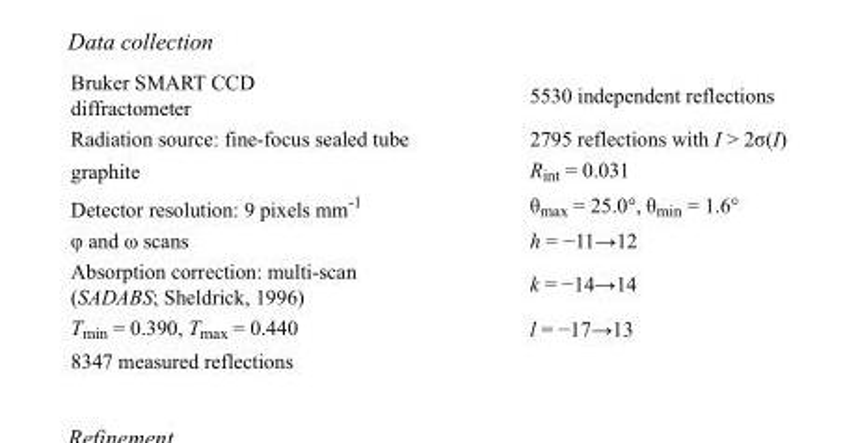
<table><tbody><tr><td>Bruker SMART CCD diffractometer</td><td>5530 independent reflections</td></tr><tr><td>Radiation source: fine-focus sealed tube</td><td>2795 reflections with I &gt; 2σ(I)</td></tr><tr><td>graphite</td><td>R<sub>int</sub> = 0.031</td></tr><tr><td>Detector resolution: 9 pixels mm<sup>-1</sup></td><td>θ<sub>max</sub> = 25.0°, θ<sub>min</sub> = 1.6°</td></tr><tr><td>φ and ω scans</td><td>h = −11→12</td></tr><tr><td>Absorption correction: multi-scan (SADABS; Sheldrick, 1996)</td><td>k = −14→14</td></tr><tr><td>T<sub>min</sub> = 0.390, T<sub>max</sub> = 0.440</td><td>l = −17→13</td></tr><tr><td>8347 measured reflections</td><td></td></tr></tbody></table>